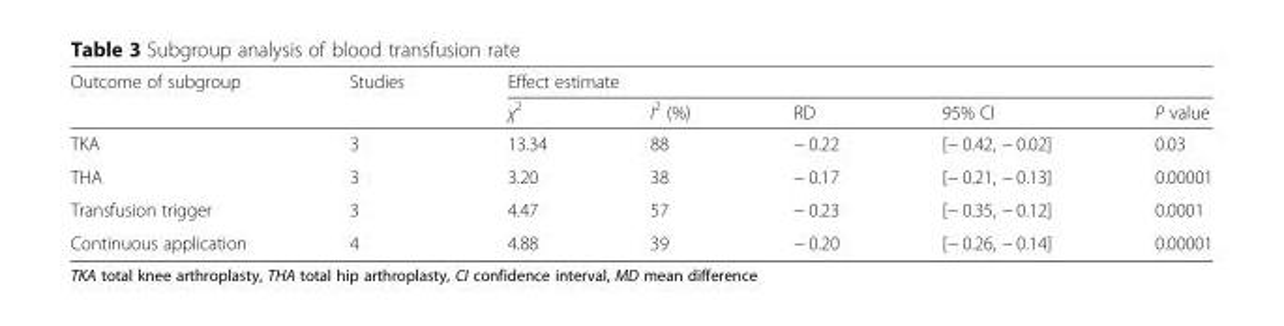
<table><thead><tr><td rowspan="2">Outcome of subgroup</td><td rowspan="2">Studies</td><td colspan="5">Effect estimate</td></tr><tr><td>χ<sup>2</sup></td><td>I<sup>2</sup> (%)</td><td>RD</td><td>95% CI</td><td>P value</td></tr></thead><tbody><tr><td>TKA</td><td>3</td><td>13.34</td><td>88</td><td>− 0.22</td><td>[− 0.42, − 0.02]</td><td>0.03</td></tr><tr><td>THA</td><td>3</td><td>3.20</td><td>38</td><td>− 0.17</td><td>[− 0.21, − 0.13]</td><td>0.00001</td></tr><tr><td>Transfusion trigger</td><td>3</td><td>4.47</td><td>57</td><td>− 0.23</td><td>[− 0.35, − 0.12]</td><td>0.0001</td></tr><tr><td>Continuous application</td><td>4</td><td>4.88</td><td>39</td><td>− 0.20</td><td>[− 0.26, − 0.14]</td><td>0.00001</td></tr></tbody></table>